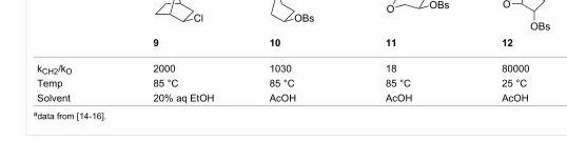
<table><thead><tr><td></td><td>9</td><td>10</td><td>11</td><td>12</td></tr></thead><tbody><tr><td>k<sub>CH2</sub>/k<sub>O</sub></td><td>2000</td><td>1030</td><td>18</td><td>80000</td></tr><tr><td>Temp</td><td>85 °C</td><td>85 °C</td><td>85 °C</td><td>25 °C</td></tr><tr><td>Solvent</td><td>20% aq EtOH</td><td>AcOH</td><td>AcOH</td><td>AcOH</td></tr></tbody></table>